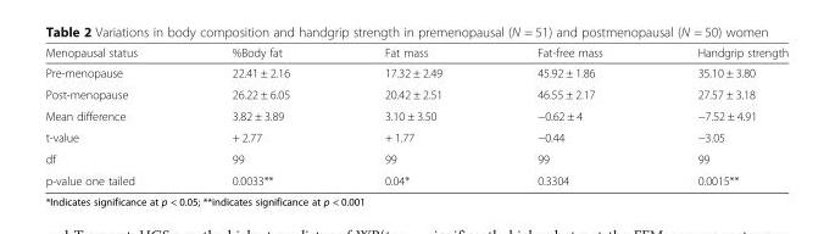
<table><thead><tr><td>Menopausal status</td><td>%Body fat</td><td>Fat mass</td><td>Fat-free mass</td><td>Handgrip strength</td></tr></thead><tbody><tr><td>Pre-menopause</td><td>22.41 ± 2.16</td><td>17.32 ± 2.49</td><td>45.92 ± 1.86</td><td>35.10 ± 3.80</td></tr><tr><td>Post-menopause</td><td>26.22 ± 6.05</td><td>20.42 ± 2.51</td><td>46.55 ± 2.17</td><td>27.57 ± 3.18</td></tr><tr><td>Mean difference</td><td>3.82 ± 3.89</td><td>3.10 ± 3.50</td><td>−0.62 ± 4</td><td>−7.52 ± 4.91</td></tr><tr><td>t-value</td><td>+ 2.77</td><td>+ 1.77</td><td>−0.44</td><td>−3.05</td></tr><tr><td>df</td><td>99</td><td>99</td><td>99</td><td>99</td></tr><tr><td>p-value one tailed</td><td>0.0033**</td><td>0.04*</td><td>0.3304</td><td>0.0015**</td></tr></tbody></table>